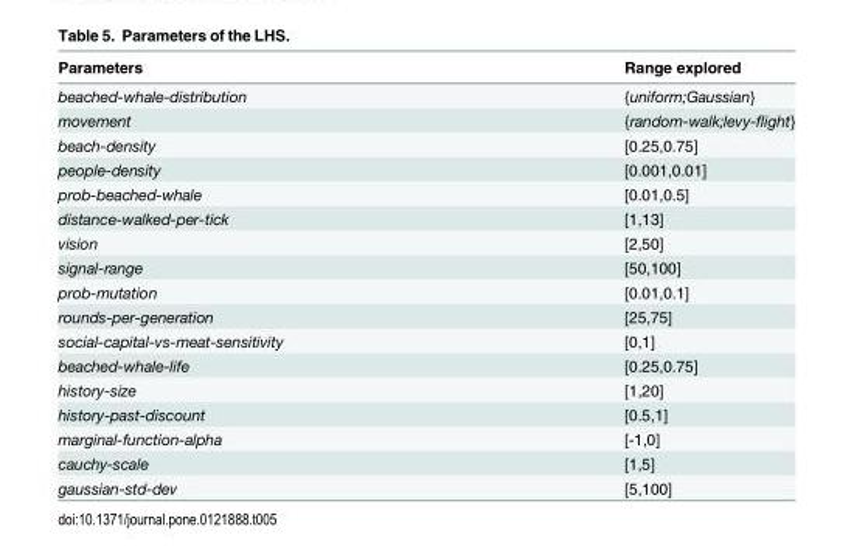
<table><thead><tr><td>Parameters</td><td>Range explored</td></tr></thead><tbody><tr><td>beached-whale-distribution</td><td>{uniform;Gaussian}</td></tr><tr><td>movement</td><td>{random-walk;levy-flight}</td></tr><tr><td>beach-density</td><td>[0.25,0.75]</td></tr><tr><td>people-density</td><td>[0.001,0.01]</td></tr><tr><td>prob-beached-whale</td><td>[0.01,0.5]</td></tr><tr><td>distance-walked-per-tick</td><td>[1,13]</td></tr><tr><td>vision</td><td>[2,50]</td></tr><tr><td>signal-range</td><td>[50,100]</td></tr><tr><td>prob-mutation</td><td>[0.01,0.1]</td></tr><tr><td>rounds-per-generation</td><td>[25,75]</td></tr><tr><td>social-capital-vs-meat-sensitivity</td><td>[0,1]</td></tr><tr><td>beached-whale-life</td><td>[0.25,0.75]</td></tr><tr><td>history-size</td><td>[1,20]</td></tr><tr><td>history-past-discount</td><td>[0.5,1]</td></tr><tr><td>marginal-function-alpha</td><td>[-1,0]</td></tr><tr><td>cauchy-scale</td><td>[1,5]</td></tr><tr><td>gaussian-std-dev</td><td>[5,100]</td></tr></tbody></table>